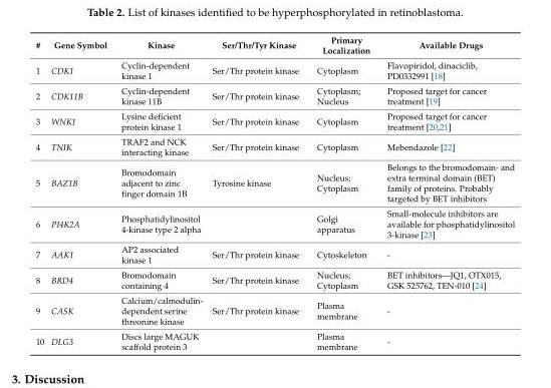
<table><thead><tr><td>#</td><td>Gene Symbol</td><td>Kinase</td><td>Ser/Thr/Tyr Kinase</td><td>Primary Localization</td><td>Available Drugs</td></tr></thead><tbody><tr><td>1</td><td>CDK1</td><td>Cyclin-dependent kinase 1</td><td>Ser/Thr protein kinase</td><td>Cytoplasm</td><td>Flavopiridol, dinaciclib, PD0332991 [18]</td></tr><tr><td>2</td><td>CDK11B</td><td>Cyclin-dependent kinase 11B</td><td>Ser/Thr protein kinase</td><td>Cytoplasm; Nucleus</td><td>Proposed target for cancer treatment [19]</td></tr><tr><td>3</td><td>WNK1</td><td>Lysine deficient protein kinase 1</td><td>Ser/Thr protein kinase</td><td>Cytoplasm</td><td>Proposed target for cancer treatment [20,21]</td></tr><tr><td>4</td><td>TNIK</td><td>TRAF2 and NCK interacting kinase</td><td>Ser/Thr protein kinase</td><td>Cytoplasm</td><td>Mebendazole [22]</td></tr><tr><td>5</td><td>BAZ1B</td><td>Bromodomain adjacent to zinc finger domain 1B</td><td>Tyrosine kinase</td><td>Nucleus; Cytoplasm</td><td>Belongs to the bromodomain- and extra terminal domain (BET) family of proteins. Probably targeted by BET inhibitors</td></tr><tr><td>6</td><td>PI4K2A</td><td>Phosphatidylinositol 4-kinase type 2 alpha</td><td></td><td>Golgi apparatus</td><td>Small-molecule inhibitors are available for phosphatidylinositol 3-kinase [23]</td></tr><tr><td>7</td><td>AAK1</td><td>AP2 associated kinase 1</td><td>Ser/Thr protein kinase</td><td>Cytoskeleton</td><td>-</td></tr><tr><td>8</td><td>BRD4</td><td>Bromodomain containing 4</td><td>Ser/Thr protein kinase</td><td>Nucleus; Cytoplasm</td><td>BET inhibitors—JQ1, OTX015, GSK 525762, TEN-010 [24]</td></tr><tr><td>9</td><td>CASK</td><td>Calcium/calmodulin- dependent serine threonine kinase</td><td>Ser/Thr protein kinase</td><td>Plasma membrane</td><td>-</td></tr><tr><td>10</td><td>DLG3</td><td>Discs large MAGUK scaffold protein 3</td><td></td><td>Plasma membrane</td><td>-</td></tr></tbody></table>